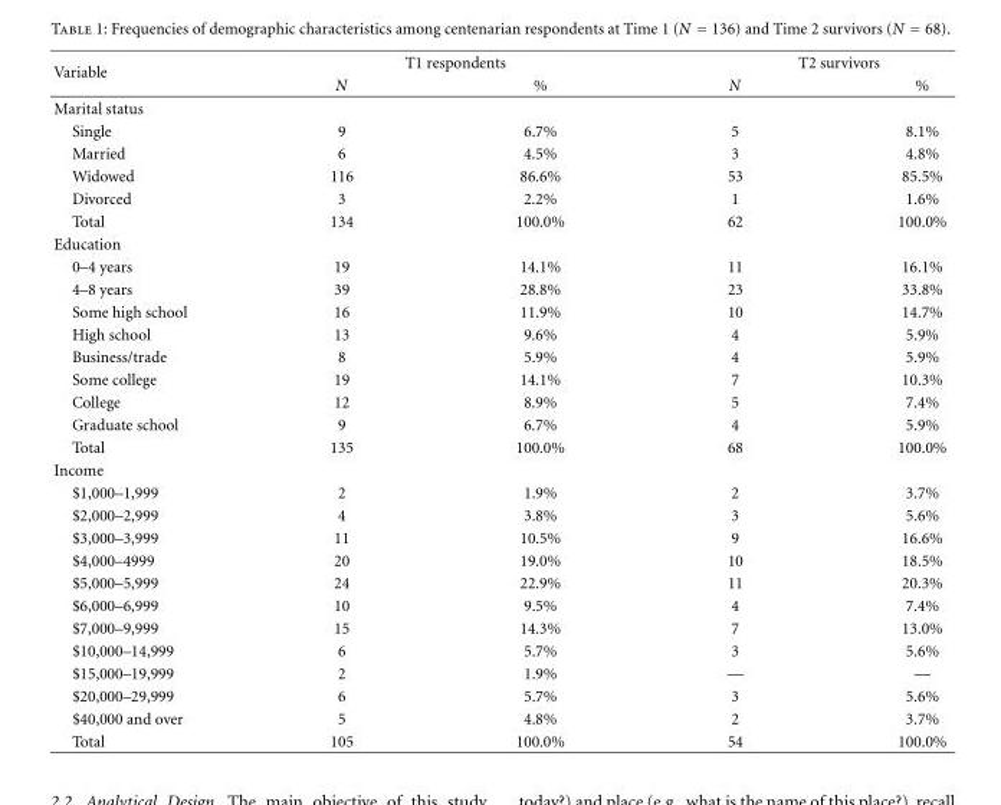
<table><thead><tr><td rowspan="2">Variable</td><td colspan="2">T1 respondents</td><td colspan="2">T2 survivors</td></tr><tr><td>N</td><td>%</td><td>N</td><td>%</td></tr></thead><tbody><tr><td colspan="5">Marital status</td></tr><tr><td>Single</td><td>9</td><td>6.7%</td><td>5</td><td>8.1%</td></tr><tr><td>Married</td><td>6</td><td>4.5%</td><td>3</td><td>4.8%</td></tr><tr><td>Widowed</td><td>116</td><td>86.6%</td><td>53</td><td>85.5%</td></tr><tr><td>Divorced</td><td>3</td><td>2.2%</td><td>1</td><td>1.6%</td></tr><tr><td>Total</td><td>134</td><td>100.0%</td><td>62</td><td>100.0%</td></tr><tr><td colspan="5">Education</td></tr><tr><td>0–4 years</td><td>19</td><td>14.1%</td><td>11</td><td>16.1%</td></tr><tr><td>4–8 years</td><td>39</td><td>28.8%</td><td>23</td><td>33.8%</td></tr><tr><td>Some high school</td><td>16</td><td>11.9%</td><td>10</td><td>14.7%</td></tr><tr><td>High school</td><td>13</td><td>9.6%</td><td>4</td><td>5.9%</td></tr><tr><td>Business/trade</td><td>8</td><td>5.9%</td><td>4</td><td>5.9%</td></tr><tr><td>Some college</td><td>19</td><td>14.1%</td><td>7</td><td>10.3%</td></tr><tr><td>College</td><td>12</td><td>8.9%</td><td>5</td><td>7.4%</td></tr><tr><td>Graduate school</td><td>9</td><td>6.7%</td><td>4</td><td>5.9%</td></tr><tr><td>Total</td><td>135</td><td>100.0%</td><td>68</td><td>100.0%</td></tr><tr><td colspan="5">Income</td></tr><tr><td>$1,000–1,999</td><td>2</td><td>1.9%</td><td>2</td><td>3.7%</td></tr><tr><td>$2,000–2,999</td><td>4</td><td>3.8%</td><td>3</td><td>5.6%</td></tr><tr><td>$3,000–3,999</td><td>11</td><td>10.5%</td><td>9</td><td>16.6%</td></tr><tr><td>$4,000–4999</td><td>20</td><td>19.0%</td><td>10</td><td>18.5%</td></tr><tr><td>$5,000–5,999</td><td>24</td><td>22.9%</td><td>11</td><td>20.3%</td></tr><tr><td>$6,000–6,999</td><td>10</td><td>9.5%</td><td>4</td><td>7.4%</td></tr><tr><td>$7,000–9,999</td><td>15</td><td>14.3%</td><td>7</td><td>13.0%</td></tr><tr><td>$10,000–14,999</td><td>6</td><td>5.7%</td><td>3</td><td>5.6%</td></tr><tr><td>$15,000–19,999</td><td>2</td><td>1.9%</td><td>—</td><td>—</td></tr><tr><td>$20,000–29,999</td><td>6</td><td>5.7%</td><td>3</td><td>5.6%</td></tr><tr><td>$40,000 and over</td><td>5</td><td>4.8%</td><td>2</td><td>3.7%</td></tr><tr><td>Total</td><td>105</td><td>100.0%</td><td>54</td><td>100.0%</td></tr></tbody></table>